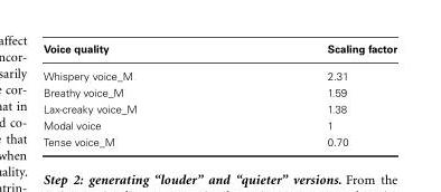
<table><thead><tr><td>Voice quality</td><td>Scaling factor</td></tr></thead><tbody><tr><td>Whispery voice_M</td><td>2.31</td></tr><tr><td>Breathy voice_M</td><td>1.59</td></tr><tr><td>Lax-creaky voice_M</td><td>1.38</td></tr><tr><td>Modal voice</td><td>1</td></tr><tr><td>Tense voice_M</td><td>0.70</td></tr></tbody></table>